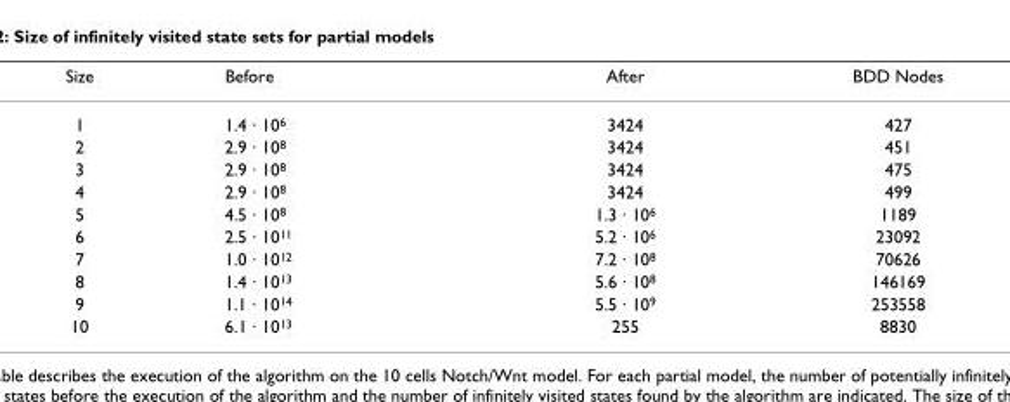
<table><thead><tr><td>Size</td><td>Before</td><td>After</td><td>BDD Nodes</td></tr></thead><tbody><tr><td>1</td><td>1.4 · 106</td><td>3424</td><td>427</td></tr><tr><td>2</td><td>2.9 · 108</td><td>3424</td><td>451</td></tr><tr><td>3</td><td>2.9 · 108</td><td>3424</td><td>475</td></tr><tr><td>4</td><td>2.9 · 108</td><td>3424</td><td>499</td></tr><tr><td>5</td><td>4.5 · 108</td><td>1.3 · 106</td><td>1189</td></tr><tr><td>6</td><td>2.5 · 1011</td><td>5.2 · 106</td><td>23092</td></tr><tr><td>7</td><td>1.0 · 1012</td><td>7.2 · 108</td><td>70626</td></tr><tr><td>8</td><td>1.4 · 1013</td><td>5.6 · 108</td><td>146169</td></tr><tr><td>9</td><td>1.1 · 1014</td><td>5.5 · 109</td><td>253558</td></tr><tr><td>10</td><td>6.1 · 1013</td><td>255</td><td>8830</td></tr></tbody></table>